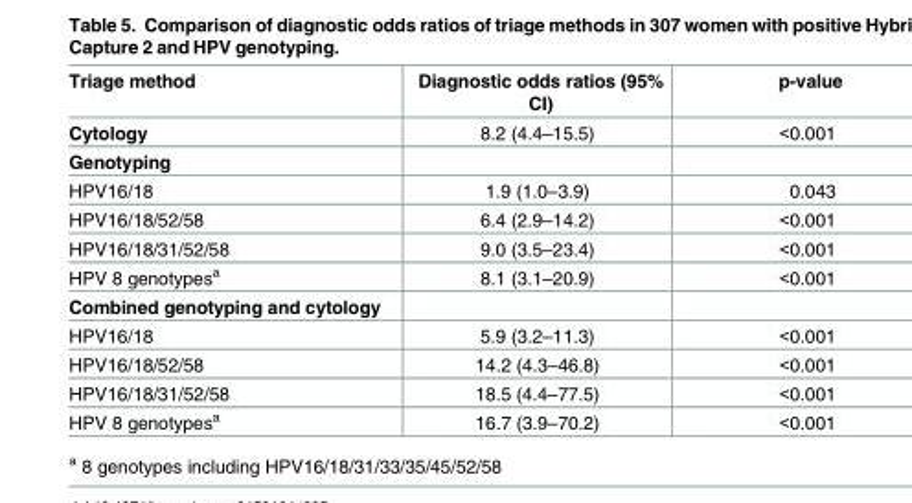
<table><thead><tr><td>Triage method</td><td>Diagnostic odds ratios (95% CI)</td><td>p-value</td></tr></thead><tbody><tr><td>Cytology</td><td>8.2 (4.4–15.5)</td><td>&lt;0.001</td></tr><tr><td colspan="3">Genotyping</td></tr><tr><td>HPV16/18</td><td>1.9 (1.0–3.9)</td><td>0.043</td></tr><tr><td>HPV16/18/52/58</td><td>6.4 (2.9–14.2)</td><td>&lt;0.001</td></tr><tr><td>HPV16/18/31/52/58</td><td>9.0 (3.5–23.4)</td><td>&lt;0.001</td></tr><tr><td>HPV 8 genotypes<sup>a</sup></td><td>8.1 (3.1–20.9)</td><td>&lt;0.001</td></tr><tr><td colspan="3">Combined genotyping and cytology</td></tr><tr><td>HPV16/18</td><td>5.9 (3.2–11.3)</td><td>&lt;0.001</td></tr><tr><td>HPV16/18/52/58</td><td>14.2 (4.3–46.8)</td><td>&lt;0.001</td></tr><tr><td>HPV16/18/31/52/58</td><td>18.5 (4.4–77.5)</td><td>&lt;0.001</td></tr><tr><td>HPV 8 genotypes<sup>a</sup></td><td>16.7 (3.9–70.2)</td><td>&lt;0.001</td></tr></tbody></table>